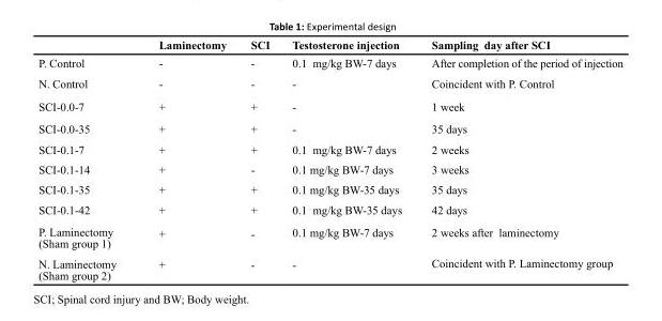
<table><thead><tr><td></td><td>Laminectomy</td><td>SCI</td><td>Testosterone injection</td><td>Sampling day after SCI</td></tr></thead><tbody><tr><td>P. Control</td><td>-</td><td>-</td><td>0.1 mg/kg BW-7 days</td><td>After completion of the period of injection</td></tr><tr><td>N. Control</td><td>-</td><td>-</td><td>-</td><td>Coincident with P. Control</td></tr><tr><td>SCI-0.0-7</td><td>+</td><td>+</td><td>-</td><td>1 week</td></tr><tr><td>SCI-0.0-35</td><td>+</td><td>+</td><td>-</td><td>35 days</td></tr><tr><td>SCI-0.1-7</td><td>+</td><td>+</td><td>0.1 mg/kg BW-7 days</td><td>2 weeks</td></tr><tr><td>SCI-0.1-14</td><td>+</td><td>-</td><td>0.1 mg/kg BW-7 days</td><td>3 weeks</td></tr><tr><td>SCI-0.1-35</td><td>+</td><td>+</td><td>0.1 mg/kg BW-35 days</td><td>35 days</td></tr><tr><td>SCI-0.1-42</td><td>+</td><td>+</td><td>0.1 mg/kg BW-35 days</td><td>42 days</td></tr><tr><td>P. Laminectomy (Sham group 1)</td><td>+</td><td>-</td><td>0.1 mg/kg BW-7 days</td><td>2 weeks after laminectomy</td></tr><tr><td>N. Laminectomy (Sham group 2)</td><td>+</td><td>-</td><td>-</td><td>Coincident with P. Laminectomy group</td></tr></tbody></table>